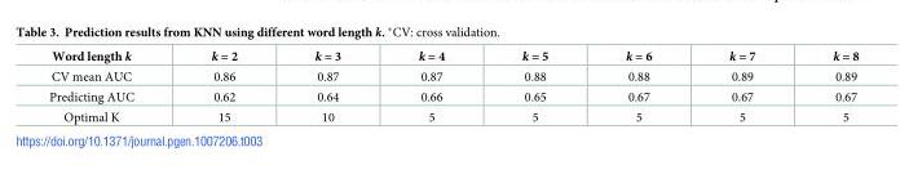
<table><thead><tr><td>Word length k</td><td>k = 2</td><td>k = 3</td><td>k = 4</td><td>k = 5</td><td>k = 6</td><td>k = 7</td><td>k = 8</td></tr></thead><tbody><tr><td>CV mean AUC</td><td>0.86</td><td>0.87</td><td>0.87</td><td>0.88</td><td>0.88</td><td>0.89</td><td>0.89</td></tr><tr><td>Predicting AUC</td><td>0.62</td><td>0.64</td><td>0.66</td><td>0.65</td><td>0.67</td><td>0.67</td><td>0.67</td></tr><tr><td>Optimal K</td><td>15</td><td>10</td><td>5</td><td>5</td><td>5</td><td>5</td><td>5</td></tr></tbody></table>